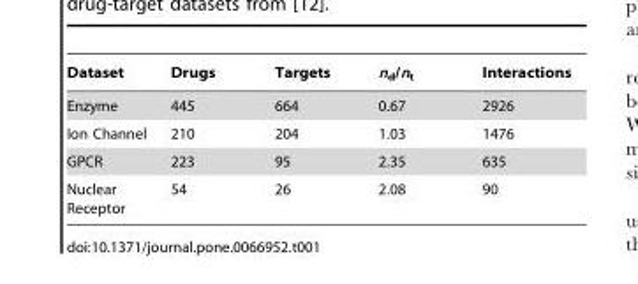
<table><thead><tr><td>Dataset</td><td>Drugs</td><td>Targets</td><td>n<sub>d</sub>/n<sub>t</sub></td><td>Interactions</td></tr></thead><tbody><tr><td>Enzyme</td><td>445</td><td>664</td><td>0.67</td><td>2926</td></tr><tr><td>Ion Channel</td><td>210</td><td>204</td><td>1.03</td><td>1476</td></tr><tr><td>GPCR</td><td>223</td><td>95</td><td>2.35</td><td>635</td></tr><tr><td>Nuclear Receptor</td><td>54</td><td>26</td><td>2.08</td><td>90</td></tr></tbody></table>